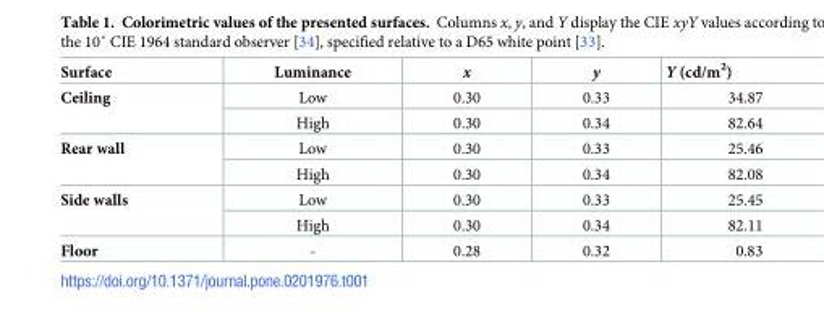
<table><thead><tr><td>Surface</td><td>Luminance</td><td>x</td><td>y</td><td>Y (cd/m<sup>2</sup>)</td></tr></thead><tbody><tr><td rowspan="2">Ceiling</td><td>Low</td><td>0.30</td><td>0.33</td><td>34.87</td></tr><tr><td>High</td><td>0.30</td><td>0.34</td><td>82.64</td></tr><tr><td rowspan="2">Rear wall</td><td>Low</td><td>0.30</td><td>0.33</td><td>25.46</td></tr><tr><td>High</td><td>0.30</td><td>0.34</td><td>82.08</td></tr><tr><td rowspan="2">Side walls</td><td>Low</td><td>0.30</td><td>0.33</td><td>25.45</td></tr><tr><td>High</td><td>0.30</td><td>0.34</td><td>82.11</td></tr><tr><td>Floor</td><td>-</td><td>0.28</td><td>0.32</td><td>0.83</td></tr></tbody></table>